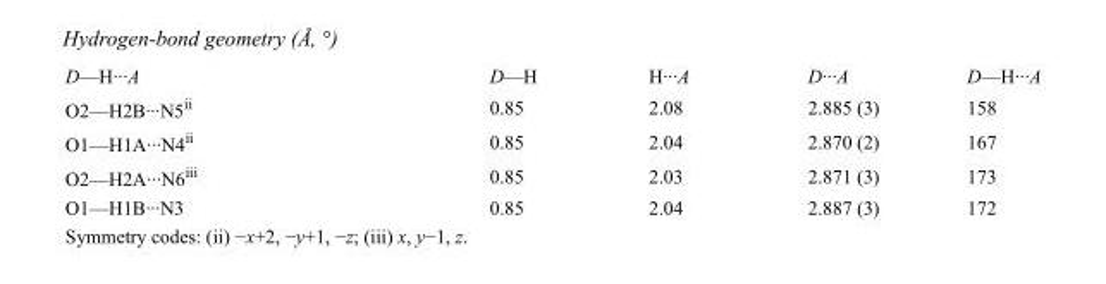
<table><tbody><tr><td>D—H···A</td><td>D—H</td><td>H···A</td><td>D···A</td><td>D—H···A</td></tr><tr><td>O2—H2B···N5<sup>ii</sup></td><td>0.85</td><td>2.08</td><td>2.885 (3)</td><td>158</td></tr><tr><td>O1—H1A···N4<sup>ii</sup></td><td>0.85</td><td>2.04</td><td>2.870 (2)</td><td>167</td></tr><tr><td>O2—H2A···N6<sup>iii</sup></td><td>0.85</td><td>2.03</td><td>2.871 (3)</td><td>173</td></tr><tr><td>O1—H1B···N3</td><td>0.85</td><td>2.04</td><td>2.887 (3)</td><td>172</td></tr></tbody></table>